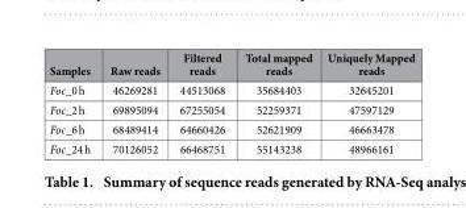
<table><thead><tr><td>Samples</td><td>Raw reads</td><td>Filtered reads</td><td>Total mapped reads</td><td>Uniquely Mapped reads</td></tr></thead><tbody><tr><td>Foc_0 h</td><td>46269281</td><td>44513068</td><td>35684403</td><td>32645201</td></tr><tr><td>Foc_2 h</td><td>69895094</td><td>67255054</td><td>52259371</td><td>47597129</td></tr><tr><td>Foc_6 h</td><td>68489414</td><td>64660426</td><td>52621909</td><td>46663478</td></tr><tr><td>Foc_24 h</td><td>70126052</td><td>66468751</td><td>55143238</td><td>48966161</td></tr></tbody></table>